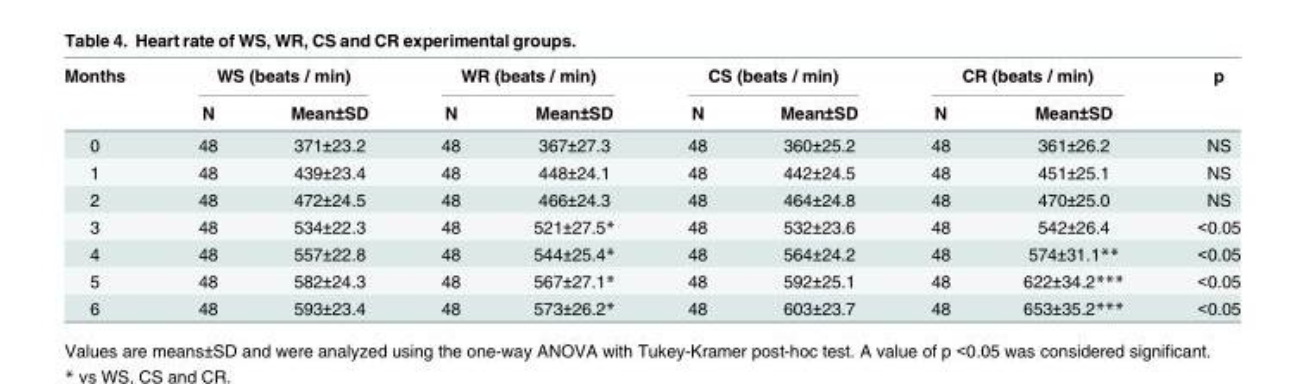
<table><thead><tr><td rowspan="2">Months</td><td colspan="2">WS (beats / min)</td><td colspan="2">WR (beats / min)</td><td colspan="2">CS (beats / min)</td><td colspan="2">CR (beats / min)</td><td rowspan="2">p</td></tr><tr><td>N</td><td>Mean±SD</td><td>N</td><td>Mean±SD</td><td>N</td><td>Mean±SD</td><td>N</td><td>Mean±SD</td></tr></thead><tbody><tr><td>0</td><td>48</td><td>371±23.2</td><td>48</td><td>367±27.3</td><td>48</td><td>360±25.2</td><td>48</td><td>361±26.2</td><td>NS</td></tr><tr><td>1</td><td>48</td><td>439±23.4</td><td>48</td><td>448±24.1</td><td>48</td><td>442±24.5</td><td>48</td><td>451±25.1</td><td>NS</td></tr><tr><td>2</td><td>48</td><td>472±24.5</td><td>48</td><td>466±24.3</td><td>48</td><td>464±24.8</td><td>48</td><td>470±25.0</td><td>NS</td></tr><tr><td>3</td><td>48</td><td>534±22.3</td><td>48</td><td>521±27.5*</td><td>48</td><td>532±23.6</td><td>48</td><td>542±26.4</td><td>&lt;0.05</td></tr><tr><td>4</td><td>48</td><td>557±22.8</td><td>48</td><td>544±25.4*</td><td>48</td><td>564±24.2</td><td>48</td><td>574±31.1**</td><td>&lt;0.05</td></tr><tr><td>5</td><td>48</td><td>582±24.3</td><td>48</td><td>567±27.1*</td><td>48</td><td>592±25.1</td><td>48</td><td>622±34.2***</td><td>&lt;0.05</td></tr><tr><td>6</td><td>48</td><td>593±23.4</td><td>48</td><td>573±26.2*</td><td>48</td><td>603±23.7</td><td>48</td><td>653±35.2***</td><td>&lt;0.05</td></tr></tbody></table>